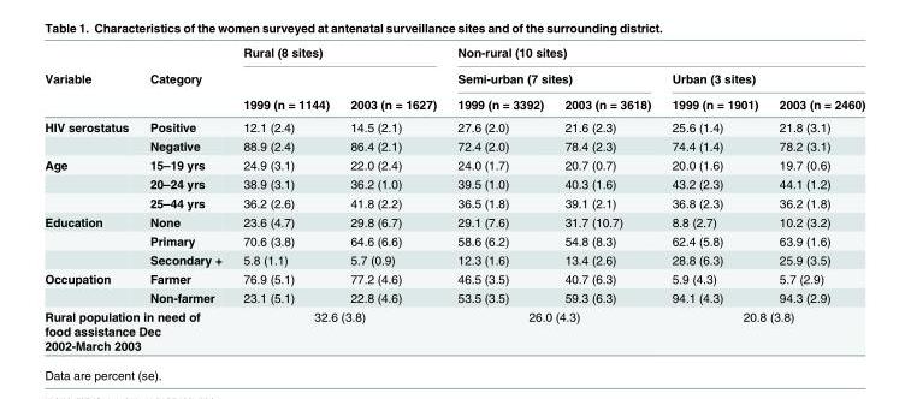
<table><thead><tr><td rowspan="3">Variable</td><td rowspan="3">Category</td><td colspan="2">Rural (8 sites)</td><td colspan="4">Non-rural (10 sites)</td></tr><tr><td rowspan="2">1999 (n = 1144)</td><td rowspan="2">2003 (n = 1627)</td><td colspan="2">Semi-urban (7 sites)</td><td colspan="2">Urban (3 sites)</td></tr><tr><td>1999 (n = 3392)</td><td>2003 (n = 3618)</td><td>1999 (n = 1901)</td><td>2003 (n = 2460)</td></tr></thead><tbody><tr><td rowspan="2">HIV serostatus</td><td>Positive</td><td>12.1 (2.4)</td><td>14.5 (2.1)</td><td>27.6 (2.0)</td><td>21.6 (2.3)</td><td>25.6 (1.4)</td><td>21.8 (3.1)</td></tr><tr><td>Negative</td><td>88.9 (2.4)</td><td>86.4 (2.1)</td><td>72.4 (2.0)</td><td>78.4 (2.3)</td><td>74.4 (1.4)</td><td>78.2 (3.1)</td></tr><tr><td rowspan="3">Age</td><td>15–19 yrs</td><td>24.9 (3.1)</td><td>22.0 (2.4)</td><td>24.0 (1.7)</td><td>20.7 (0.7)</td><td>20.0 (1.6)</td><td>19.7 (0.6)</td></tr><tr><td>20–24 yrs</td><td>38.9 (3.1)</td><td>36.2 (1.0)</td><td>39.5 (1.0)</td><td>40.3 (1.6)</td><td>43.2 (2.3)</td><td>44.1 (1.2)</td></tr><tr><td>25–44 yrs</td><td>36.2 (2.6)</td><td>41.8 (2.2)</td><td>36.5 (1.8)</td><td>39.1 (2.1)</td><td>36.8 (2.3)</td><td>36.2 (1.8)</td></tr><tr><td rowspan="3">Education</td><td>None</td><td>23.6 (4.7)</td><td>29.8 (6.7)</td><td>29.1 (7.6)</td><td>31.7 (10.7)</td><td>8.8 (2.7)</td><td>10.2 (3.2)</td></tr><tr><td>Primary</td><td>70.6 (3.8)</td><td>64.6 (6.6)</td><td>58.6 (6.2)</td><td>54.8 (8.3)</td><td>62.4 (5.8)</td><td>63.9 (1.6)</td></tr><tr><td>Secondary +</td><td>5.8 (1.1)</td><td>5.7 (0.9)</td><td>12.3 (1.6)</td><td>13.4 (2.6)</td><td>28.8 (6.3)</td><td>25.9 (3.5)</td></tr><tr><td rowspan="2">Occupation</td><td>Farmer</td><td>76.9 (5.1)</td><td>77.2 (4.6)</td><td>46.5 (3.5)</td><td>40.7 (6.3)</td><td>5.9 (4.3)</td><td>5.7 (2.9)</td></tr><tr><td>Non-farmer</td><td>23.1 (5.1)</td><td>22.8 (4.6)</td><td>53.5 (3.5)</td><td>59.3 (6.3)</td><td>94.1 (4.3)</td><td>94.3 (2.9)</td></tr><tr><td colspan="2">Rural population in need of food assistance Dec 2002-March 2003</td><td colspan="2">32.6 (3.8)</td><td colspan="2">26.0 (4.3)</td><td colspan="2">20.8 (3.8)</td></tr></tbody></table>